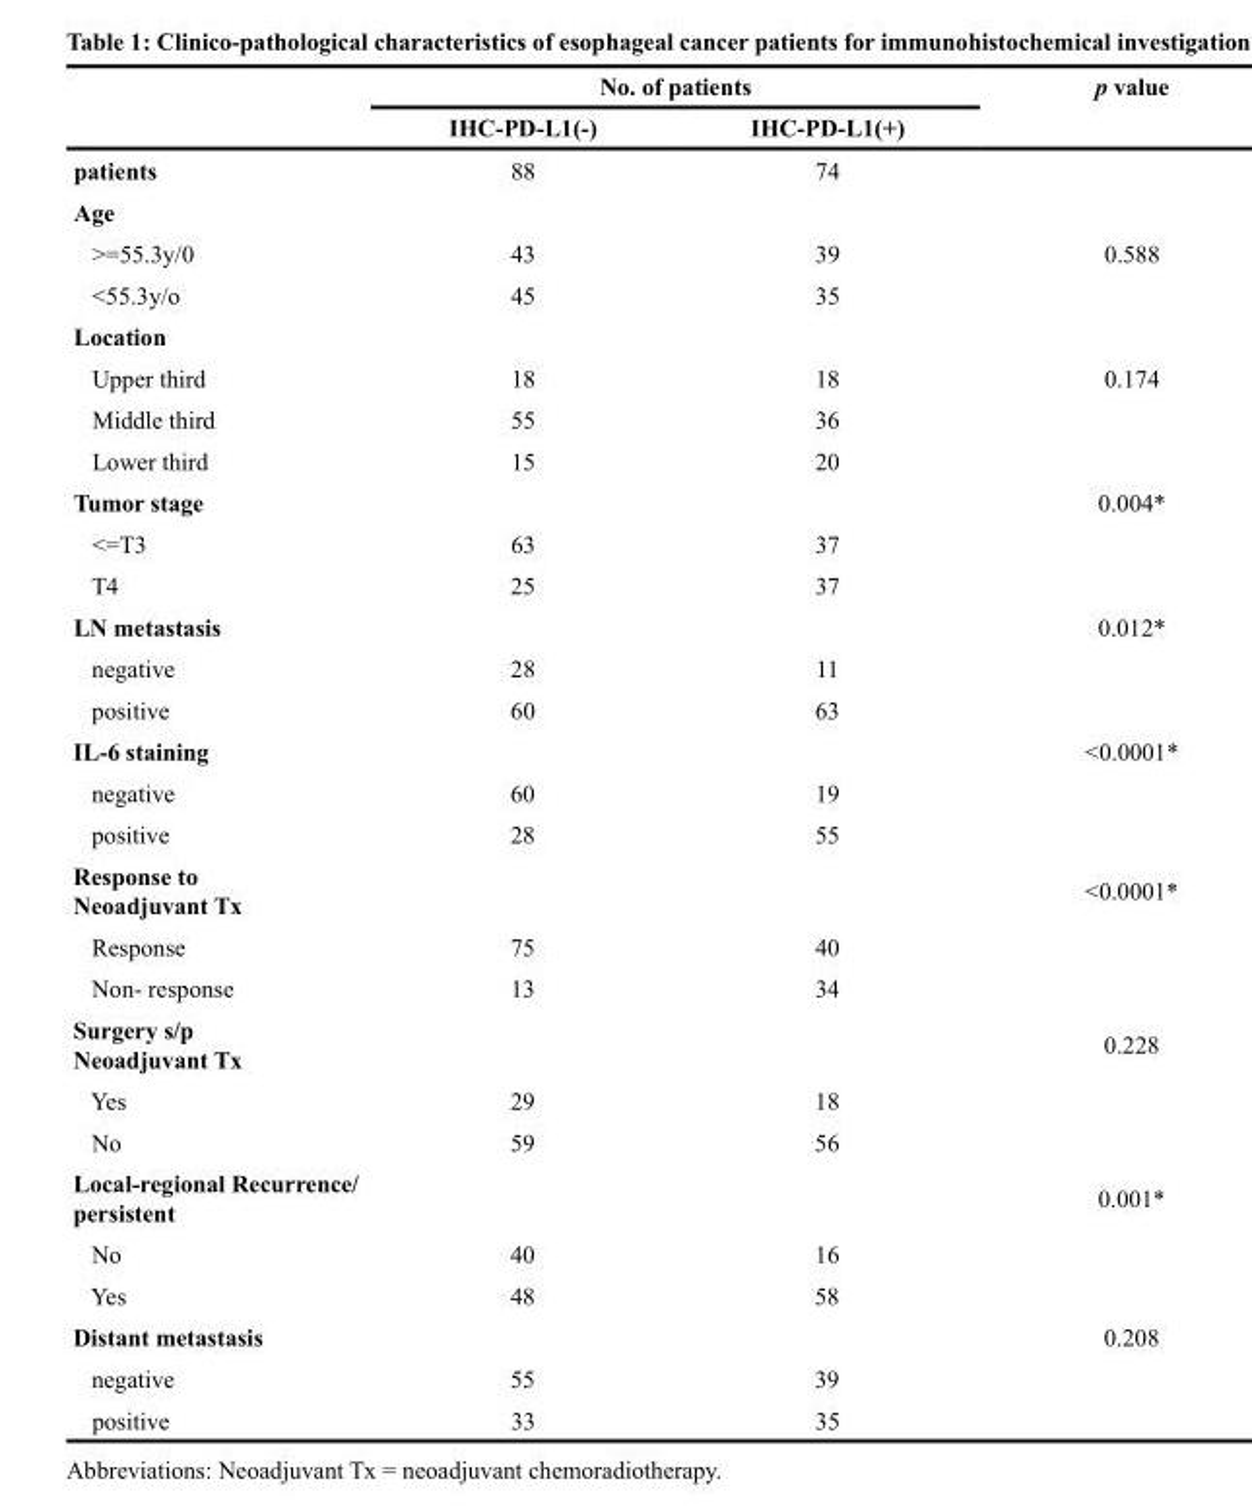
<table><thead><tr><td rowspan="2"></td><td colspan="2">No. of patients</td><td rowspan="2">p value</td></tr><tr><td>IHC-PD-L1(-)</td><td>IHC-PD-L1(+)</td></tr></thead><tbody><tr><td>patients</td><td>88</td><td>74</td><td></td></tr><tr><td colspan="4">Age</td></tr><tr><td>&gt;=55.3y/0</td><td>43</td><td>39</td><td>0.588</td></tr><tr><td>&lt;55.3y/o</td><td>45</td><td>35</td><td></td></tr><tr><td colspan="4">Location</td></tr><tr><td>Upper third</td><td>18</td><td>18</td><td>0.174</td></tr><tr><td>Middle third</td><td>55</td><td>36</td><td></td></tr><tr><td>Lower third</td><td>15</td><td>20</td><td></td></tr><tr><td>Tumor stage</td><td></td><td></td><td>0.004*</td></tr><tr><td>&lt;=T3</td><td>63</td><td>37</td><td></td></tr><tr><td>T4</td><td>25</td><td>37</td><td></td></tr><tr><td>LN metastasis</td><td></td><td></td><td>0.012*</td></tr><tr><td>negative</td><td>28</td><td>11</td><td></td></tr><tr><td>positive</td><td>60</td><td>63</td><td></td></tr><tr><td>IL-6 staining</td><td></td><td></td><td>&lt;0.0001*</td></tr><tr><td>negative</td><td>60</td><td>19</td><td></td></tr><tr><td>positive</td><td>28</td><td>55</td><td></td></tr><tr><td>Response to Neoadjuvant Tx</td><td></td><td></td><td>&lt;0.0001*</td></tr><tr><td>Response</td><td>75</td><td>40</td><td></td></tr><tr><td>Non- response</td><td>13</td><td>34</td><td></td></tr><tr><td>Surgery s/p Neoadjuvant Tx</td><td></td><td></td><td>0.228</td></tr><tr><td>Yes</td><td>29</td><td>18</td><td></td></tr><tr><td>No</td><td>59</td><td>56</td><td></td></tr><tr><td>Local-regional Recurrence/ persistent</td><td></td><td></td><td>0.001*</td></tr><tr><td>No</td><td>40</td><td>16</td><td></td></tr><tr><td>Yes</td><td>48</td><td>58</td><td></td></tr><tr><td>Distant metastasis</td><td></td><td></td><td>0.208</td></tr><tr><td>negative</td><td>55</td><td>39</td><td></td></tr><tr><td>positive</td><td>33</td><td>35</td><td></td></tr></tbody></table>